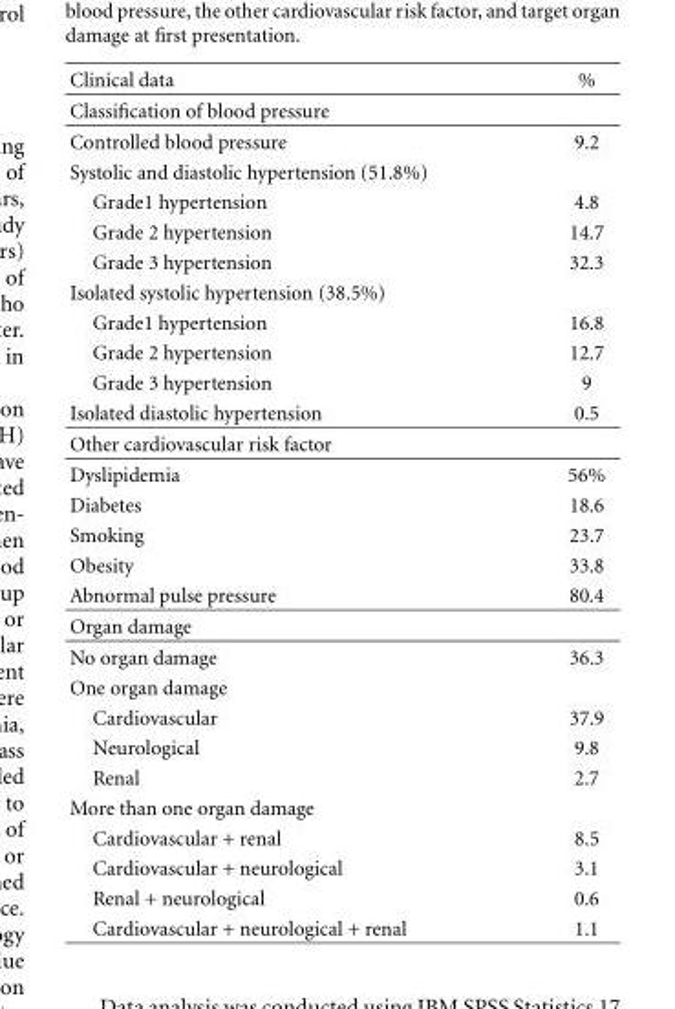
<table><thead><tr><td>Clinical data</td><td>%</td></tr></thead><tbody><tr><td colspan="2">Classification of blood pressure</td></tr><tr><td>Controlled blood pressure</td><td>9.2</td></tr><tr><td colspan="2">Systolic and diastolic hypertension (51.8%)</td></tr><tr><td>Grade1 hypertension</td><td>4.8</td></tr><tr><td>Grade 2 hypertension</td><td>14.7</td></tr><tr><td>Grade 3 hypertension</td><td>32.3</td></tr><tr><td colspan="2">Isolated systolic hypertension (38.5%)</td></tr><tr><td>Grade1 hypertension</td><td>16.8</td></tr><tr><td>Grade 2 hypertension</td><td>12.7</td></tr><tr><td>Grade 3 hypertension</td><td>9</td></tr><tr><td>Isolated diastolic hypertension</td><td>0.5</td></tr><tr><td colspan="2">Other cardiovascular risk factor</td></tr><tr><td>Dyslipidemia</td><td>56%</td></tr><tr><td>Diabetes</td><td>18.6</td></tr><tr><td>Smoking</td><td>23.7</td></tr><tr><td>Obesity</td><td>33.8</td></tr><tr><td>Abnormal pulse pressure</td><td>80.4</td></tr><tr><td colspan="2">Organ damage</td></tr><tr><td>No organ damage</td><td>36.3</td></tr><tr><td colspan="2">One organ damage</td></tr><tr><td>Cardiovascular</td><td>37.9</td></tr><tr><td>Neurological</td><td>9.8</td></tr><tr><td>Renal</td><td>2.7</td></tr><tr><td colspan="2">More than one organ damage</td></tr><tr><td>Cardiovascular + renal</td><td>8.5</td></tr><tr><td>Cardiovascular + neurological</td><td>3.1</td></tr><tr><td>Renal + neurological</td><td>0.6</td></tr><tr><td>Cardiovascular + neurological + renal</td><td>1.1</td></tr></tbody></table>